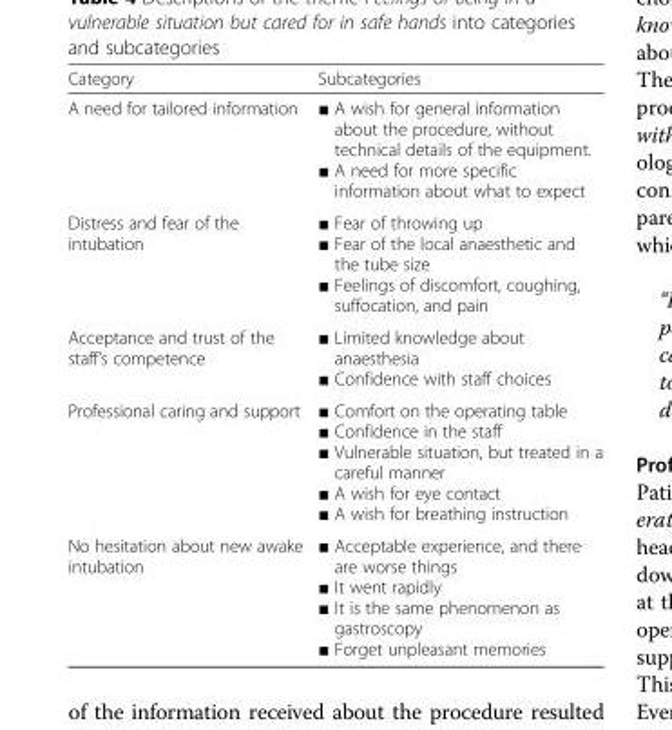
<table><thead><tr><td>Category</td><td>Subcategories</td></tr></thead><tbody><tr><td>A need for tailored information</td><td>■ A wish for general information about the procedure, without technical details of the equipment. ■ A need for more specific information about what to expect</td></tr><tr><td>Distress and fear of the intubation</td><td>■ Fear of throwing up ■ Fear of the local anaesthetic and the tube size ■ Feelings of discomfort, coughing, suffocation, and pain</td></tr><tr><td>Acceptance and trust of the staff’s competence</td><td>■ Limited knowledge about anaesthesia ■ Confidence with staff choices</td></tr><tr><td>Professional caring and support</td><td>■ Comfort on the operating table ■ Confidence in the staff ■ Vulnerable situation, but treated in a careful manner ■ A wish for eye contact ■ A wish for breathing instruction</td></tr><tr><td>No hesitation about new awake intubation</td><td>■ Acceptable experience, and there are worse things ■ It went rapidly ■ It is the same phenomenon as gastroscopy ■ Forget unpleasant memories</td></tr></tbody></table>